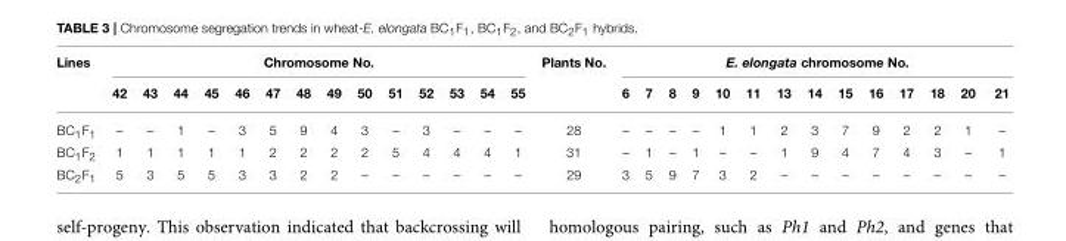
<table><thead><tr><td rowspan="2">Lines</td><td colspan="14">Chromosome No.</td><td rowspan="2">Plants No.</td><td colspan="14">E. elongata chromosome No.</td></tr><tr><td>42</td><td>43</td><td>44</td><td>45</td><td>46</td><td>47</td><td>48</td><td>49</td><td>50</td><td>51</td><td>52</td><td>53</td><td>54</td><td>55</td><td>6</td><td>7</td><td>8</td><td>9</td><td>10</td><td>11</td><td>13</td><td>14</td><td>15</td><td>16</td><td>17</td><td>18</td><td>20</td><td>21</td></tr></thead><tbody><tr><td>BC<sub>1</sub>F<sub>1</sub></td><td>–</td><td>–</td><td>1</td><td>–</td><td>3</td><td>5</td><td>9</td><td>4</td><td>3</td><td>–</td><td>3</td><td>–</td><td>–</td><td>–</td><td>28</td><td>–</td><td>–</td><td>–</td><td>–</td><td>1</td><td>1</td><td>2</td><td>3</td><td>7</td><td>9</td><td>2</td><td>2</td><td>1</td><td>–</td></tr><tr><td>BC<sub>1</sub>F<sub>2</sub></td><td>1</td><td>1</td><td>1</td><td>1</td><td>1</td><td>2</td><td>2</td><td>2</td><td>2</td><td>5</td><td>4</td><td>4</td><td>4</td><td>1</td><td>31</td><td>–</td><td>1</td><td>–</td><td>1</td><td>–</td><td>–</td><td>1</td><td>9</td><td>4</td><td>7</td><td>4</td><td>3</td><td>–</td><td>1</td></tr><tr><td>BC<sub>2</sub>F<sub>1</sub></td><td>5</td><td>3</td><td>5</td><td>5</td><td>3</td><td>3</td><td>2</td><td>2</td><td>–</td><td>–</td><td>–</td><td>–</td><td>–</td><td>–</td><td>29</td><td>3</td><td>5</td><td>9</td><td>7</td><td>3</td><td>2</td><td>–</td><td>–</td><td>–</td><td>–</td><td>–</td><td>–</td><td>–</td><td>–</td></tr></tbody></table>